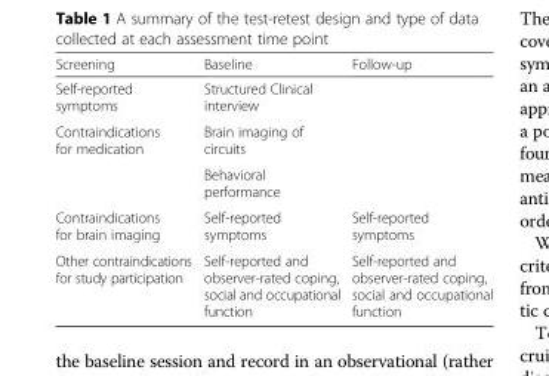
<table><thead><tr><td>Screening</td><td>Baseline</td><td>Follow-up</td></tr></thead><tbody><tr><td>Self-reported symptoms</td><td>Structured Clinical interview</td><td rowspan="3"></td></tr><tr><td rowspan="2">Contraindications for medication</td><td>Brain imaging of circuits</td></tr><tr><td>Behavioral performance</td></tr><tr><td>Contraindications for brain imaging</td><td>Self-reported symptoms</td><td>Self-reported symptoms</td></tr><tr><td>Other contraindications for study participation</td><td>Self-reported and observer-rated coping, social and occupational function</td><td>Self-reported and observer-rated coping, social and occupational function</td></tr></tbody></table>